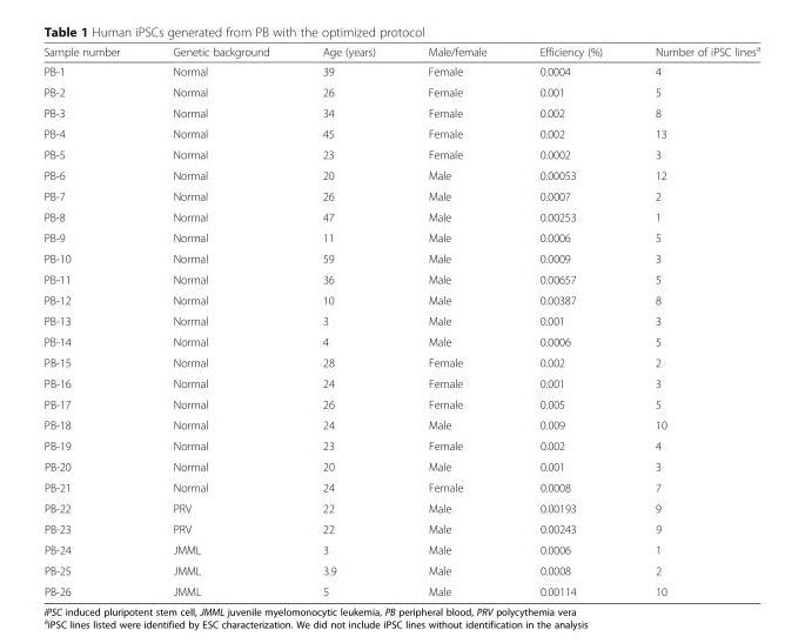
<table><thead><tr><td>Sample number</td><td>Genetic background</td><td>Age (years)</td><td>Male/female</td><td>Efficiency (%)</td><td>Number of iPSC lines<sup>a</sup></td></tr></thead><tbody><tr><td>PB-1</td><td>Normal</td><td>39</td><td>Female</td><td>0.0004</td><td>4</td></tr><tr><td>PB-2</td><td>Normal</td><td>26</td><td>Female</td><td>0.001</td><td>5</td></tr><tr><td>PB-3</td><td>Normal</td><td>34</td><td>Female</td><td>0.002</td><td>8</td></tr><tr><td>PB-4</td><td>Normal</td><td>45</td><td>Female</td><td>0.002</td><td>13</td></tr><tr><td>PB-5</td><td>Normal</td><td>23</td><td>Female</td><td>0.0002</td><td>3</td></tr><tr><td>PB-6</td><td>Normal</td><td>20</td><td>Male</td><td>0.00053</td><td>12</td></tr><tr><td>PB-7</td><td>Normal</td><td>26</td><td>Male</td><td>0.0007</td><td>2</td></tr><tr><td>PB-8</td><td>Normal</td><td>47</td><td>Male</td><td>0.00253</td><td>1</td></tr><tr><td>PB-9</td><td>Normal</td><td>11</td><td>Male</td><td>0.0006</td><td>5</td></tr><tr><td>PB-10</td><td>Normal</td><td>59</td><td>Male</td><td>0.0009</td><td>3</td></tr><tr><td>PB-11</td><td>Normal</td><td>36</td><td>Male</td><td>0.00657</td><td>5</td></tr><tr><td>PB-12</td><td>Normal</td><td>10</td><td>Male</td><td>0.00387</td><td>8</td></tr><tr><td>PB-13</td><td>Normal</td><td>3</td><td>Male</td><td>0.001</td><td>3</td></tr><tr><td>PB-14</td><td>Normal</td><td>4</td><td>Male</td><td>0.0006</td><td>5</td></tr><tr><td>PB-15</td><td>Normal</td><td>28</td><td>Female</td><td>0.002</td><td>2</td></tr><tr><td>PB-16</td><td>Normal</td><td>24</td><td>Female</td><td>0.001</td><td>3</td></tr><tr><td>PB-17</td><td>Normal</td><td>26</td><td>Female</td><td>0.005</td><td>5</td></tr><tr><td>PB-18</td><td>Normal</td><td>24</td><td>Male</td><td>0.009</td><td>10</td></tr><tr><td>PB-19</td><td>Normal</td><td>23</td><td>Female</td><td>0.002</td><td>4</td></tr><tr><td>PB-20</td><td>Normal</td><td>20</td><td>Male</td><td>0.001</td><td>3</td></tr><tr><td>PB-21</td><td>Normal</td><td>24</td><td>Female</td><td>0.0008</td><td>7</td></tr><tr><td>PB-22</td><td>PRV</td><td>22</td><td>Male</td><td>0.00193</td><td>9</td></tr><tr><td>PB-23</td><td>PRV</td><td>22</td><td>Male</td><td>0.00243</td><td>9</td></tr><tr><td>PB-24</td><td>JMML</td><td>3</td><td>Male</td><td>0.0006</td><td>1</td></tr><tr><td>PB-25</td><td>JMML</td><td>3.9</td><td>Male</td><td>0.0008</td><td>2</td></tr><tr><td>PB-26</td><td>JMML</td><td>5</td><td>Male</td><td>0.00114</td><td>10</td></tr></tbody></table>